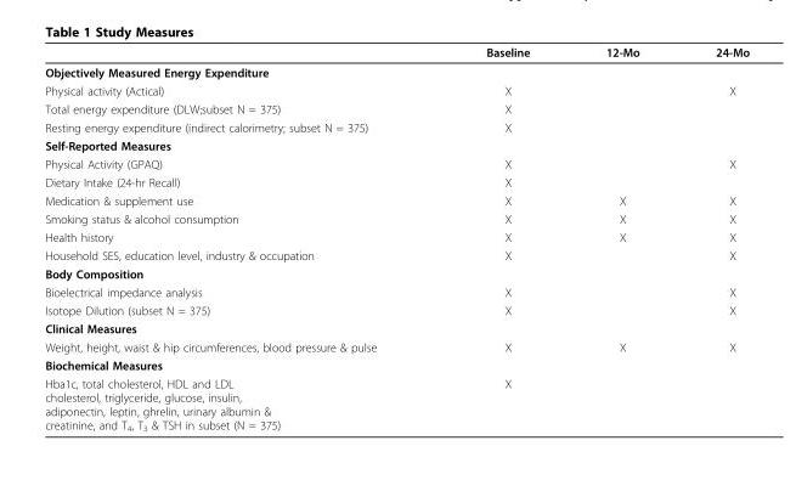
<table><thead><tr><td></td><td>Baseline</td><td>12-Mo</td><td>24-Mo</td></tr></thead><tbody><tr><td colspan="4">Objectively Measured Energy Expenditure</td></tr><tr><td>Physical activity (Actical)</td><td>X</td><td></td><td>X</td></tr><tr><td>Total energy expenditure (DLW;subset N = 375)</td><td>X</td><td></td><td></td></tr><tr><td>Resting energy expenditure (indirect calorimetry; subset N = 375)</td><td>X</td><td></td><td></td></tr><tr><td colspan="4">Self-Reported Measures</td></tr><tr><td>Physical Activity (GPAQ)</td><td>X</td><td></td><td>X</td></tr><tr><td>Dietary Intake (24-hr Recall)</td><td>X</td><td></td><td></td></tr><tr><td>Medication &amp; supplement use</td><td>X</td><td>X</td><td>X</td></tr><tr><td>Smoking status &amp; alcohol consumption</td><td>X</td><td>X</td><td>X</td></tr><tr><td>Health history</td><td>X</td><td>X</td><td>X</td></tr><tr><td>Household SES, education level, industry &amp; occupation</td><td>X</td><td></td><td>X</td></tr><tr><td colspan="4">Body Composition</td></tr><tr><td>Bioelectrical impedance analysis</td><td>X</td><td></td><td>X</td></tr><tr><td>Isotope Dilution (subset N = 375)</td><td>X</td><td></td><td>X</td></tr><tr><td colspan="4">Clinical Measures</td></tr><tr><td>Weight, height, waist &amp; hip circumferences, blood pressure &amp; pulse</td><td>X</td><td>X</td><td>X</td></tr><tr><td colspan="4">Biochemical Measures</td></tr><tr><td>Hba1c, total cholesterol, HDL and LDL cholesterol, triglyceride, glucose, insulin, adiponectin, leptin, ghrelin, urinary albumin &amp; creatinine, and T<sub>4</sub>, T<sub>3</sub> &amp; TSH in subset (N = 375)</td><td>X</td><td></td><td></td></tr></tbody></table>